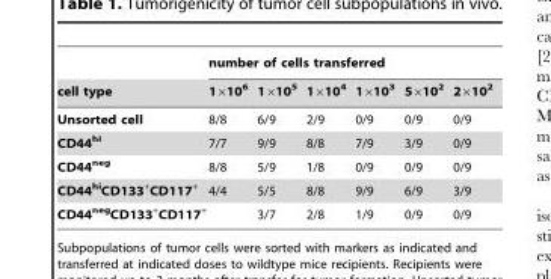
<table><thead><tr><td rowspan="2">cell type</td><td colspan="6">number of cells transferred</td></tr><tr><td>1×10<sup>6</sup></td><td>1×10<sup>5</sup></td><td>1×10<sup>4</sup></td><td>1×10<sup>3</sup></td><td>5×10<sup>2</sup></td><td>2×10<sup>2</sup></td></tr></thead><tbody><tr><td>Unsorted cell</td><td>8/8</td><td>6/9</td><td>2/9</td><td>0/9</td><td>0/9</td><td>0/9</td></tr><tr><td>CD44<sup>hi</sup></td><td>7/7</td><td>9/9</td><td>8/8</td><td>7/9</td><td>3/9</td><td>0/9</td></tr><tr><td>CD44<sup>neg</sup></td><td>8/8</td><td>5/9</td><td>1/8</td><td>0/9</td><td>0/9</td><td>0/9</td></tr><tr><td>CD44<sup>hi</sup>CD133<sup>+</sup>CD117<sup>+</sup></td><td>4/4</td><td>5/5</td><td>8/8</td><td>9/9</td><td>6/9</td><td>3/9</td></tr><tr><td>CD44<sup>neg</sup>CD133<sup>+</sup>CD117<sup>+</sup></td><td></td><td>3/7</td><td>2/8</td><td>1/9</td><td>0/9</td><td>0/9</td></tr></tbody></table>